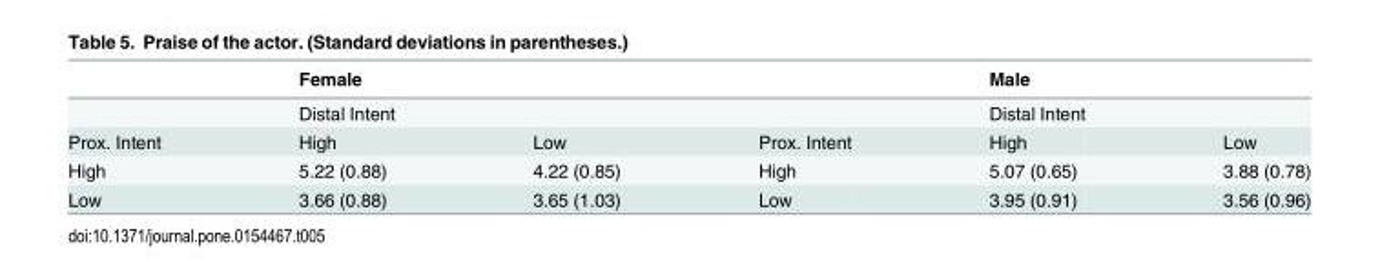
<table><thead><tr><td></td><td>Female</td><td></td><td></td><td>Male</td><td></td></tr></thead><tbody><tr><td></td><td>Distal Intent</td><td></td><td></td><td>Distal Intent</td><td></td></tr><tr><td>Prox. Intent</td><td>High</td><td>Low</td><td>Prox. Intent</td><td>High</td><td>Low</td></tr><tr><td>High</td><td>5.22 (0.88)</td><td>4.22 (0.85)</td><td>High</td><td>5.07 (0.65)</td><td>3.88 (0.78)</td></tr><tr><td>Low</td><td>3.66 (0.88)</td><td>3.65 (1.03)</td><td>Low</td><td>3.95 (0.91)</td><td>3.56 (0.96)</td></tr></tbody></table>